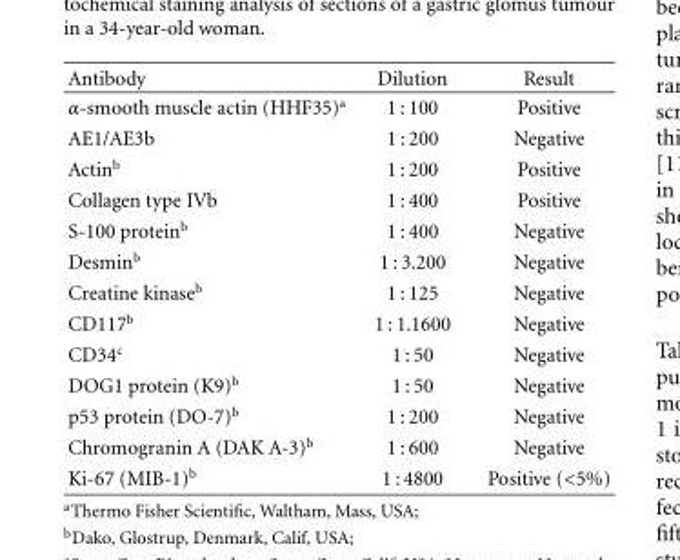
<table><thead><tr><td>Antibody</td><td>Dilution</td><td>Result</td></tr></thead><tbody><tr><td>α-smooth muscle actin (HHF35)<sup>a</sup></td><td>1 : 100</td><td>Positive</td></tr><tr><td>AE1/AE3b</td><td>1 : 200</td><td>Negative</td></tr><tr><td>Actin<sup>b</sup></td><td>1 : 200</td><td>Positive</td></tr><tr><td>Collagen type IVb</td><td>1 : 400</td><td>Positive</td></tr><tr><td>S-100 protein<sup>b</sup></td><td>1 : 400</td><td>Negative</td></tr><tr><td>Desmin<sup>b</sup></td><td>1 : 3.200</td><td>Negative</td></tr><tr><td>Creatine kinase<sup>b</sup></td><td>1 : 125</td><td>Negative</td></tr><tr><td>CD117<sup>b</sup></td><td>1 : 1.1600</td><td>Negative</td></tr><tr><td>CD34<sup>c</sup></td><td>1 : 50</td><td>Negative</td></tr><tr><td>DOG1 protein (K9)<sup>b</sup></td><td>1 : 50</td><td>Negative</td></tr><tr><td>p53 protein (DO-7)<sup>b</sup></td><td>1 : 200</td><td>Negative</td></tr><tr><td>Chromogranin A (DAK A-3)<sup>b</sup></td><td>1 : 600</td><td>Negative</td></tr><tr><td>Ki-67 (MIB-1)<sup>b</sup></td><td>1 : 4800</td><td>Positive (&lt;5%)</td></tr></tbody></table>